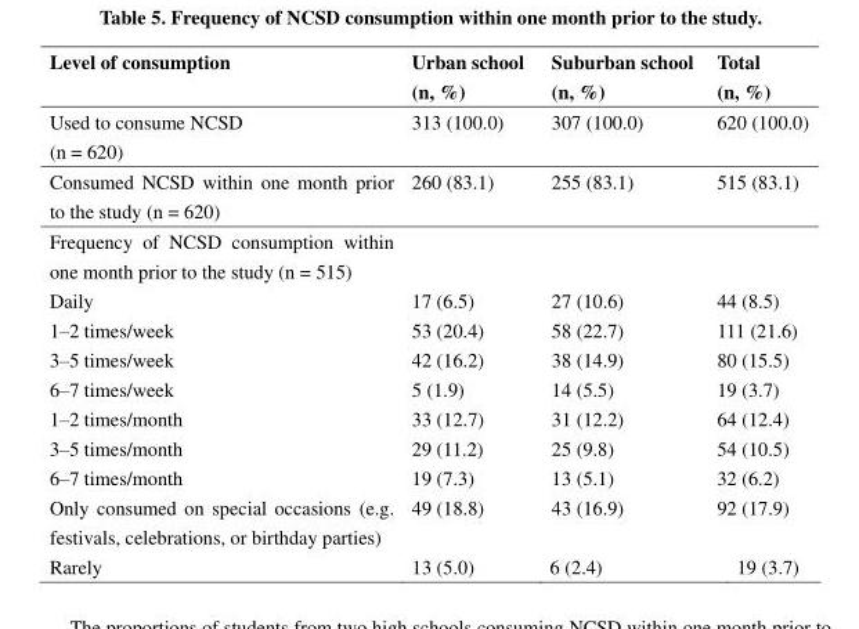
<table><thead><tr><td>Level of consumption</td><td>Urban school (n, %)</td><td>Suburban school (n, %)</td><td>Total (n, %)</td></tr></thead><tbody><tr><td>Used to consume NCSD (n = 620)</td><td>313 (100.0)</td><td>307 (100.0)</td><td>620 (100.0)</td></tr><tr><td>Consumed NCSD within one month prior to the study (n = 620)</td><td>260 (83.1)</td><td>255 (83.1)</td><td>515 (83.1)</td></tr><tr><td colspan="4">Frequency of NCSD consumption within one month prior to the study (n = 515)</td></tr><tr><td>Daily</td><td>17 (6.5)</td><td>27 (10.6)</td><td>44 (8.5)</td></tr><tr><td>1–2 times/week</td><td>53 (20.4)</td><td>58 (22.7)</td><td>111 (21.6)</td></tr><tr><td>3–5 times/week</td><td>42 (16.2)</td><td>38 (14.9)</td><td>80 (15.5)</td></tr><tr><td>6–7 times/week</td><td>5 (1.9)</td><td>14 (5.5)</td><td>19 (3.7)</td></tr><tr><td>1–2 times/month</td><td>33 (12.7)</td><td>31 (12.2)</td><td>64 (12.4)</td></tr><tr><td>3–5 times/month</td><td>29 (11.2)</td><td>25 (9.8)</td><td>54 (10.5)</td></tr><tr><td>6–7 times/month</td><td>19 (7.3)</td><td>13 (5.1)</td><td>32 (6.2)</td></tr><tr><td>Only consumed on special occasions (e.g. festivals, celebrations, or birthday parties)</td><td>49 (18.8)</td><td>43 (16.9)</td><td>92 (17.9)</td></tr><tr><td>Rarely</td><td>13 (5.0)</td><td>6 (2.4)</td><td>19 (3.7)</td></tr></tbody></table>